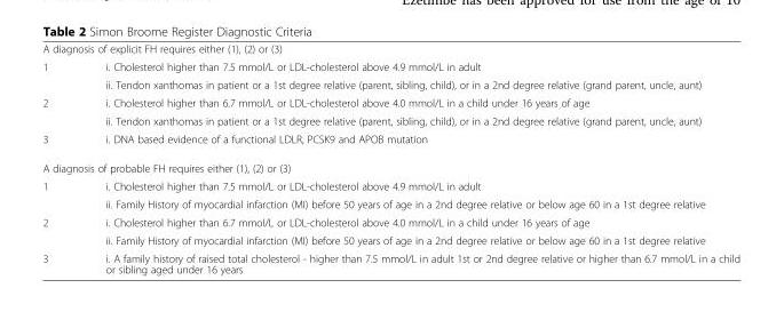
<table><tbody><tr><td colspan="2">A diagnosis of explicit FH requires either (1), (2) or (3)</td></tr><tr><td rowspan="2">1</td><td>i. Cholesterol higher than 7.5 mmol/L or LDL-cholesterol above 4.9 mmol/L in adult</td></tr><tr><td>ii. Tendon xanthomas in patient or a 1st degree relative (parent, sibling, child), or in a 2nd degree relative (grand parent, uncle, aunt)</td></tr><tr><td rowspan="2">2</td><td>i. Cholesterol higher than 6.7 mmol/L or LDL-cholesterol above 4.0 mmol/L in a child under 16 years of age</td></tr><tr><td>ii. Tendon xanthomas in patient or a 1st degree relative (parent, sibling, child), or in a 2nd degree relative (grand parent, uncle, aunt)</td></tr><tr><td>3</td><td>i. DNA based evidence of a functional LDLR, PCSK9 and APOB mutation</td></tr><tr><td colspan="2">A diagnosis of probable FH requires either (1), (2) or (3)</td></tr><tr><td rowspan="2">1</td><td>i. Cholesterol higher than 7.5 mmol/L or LDL-cholesterol above 4.9 mmol/L in adult</td></tr><tr><td>ii. Family History of myocardial infarction (MI) before 50 years of age in a 2nd degree relative or below age 60 in a 1st degree relative</td></tr><tr><td rowspan="2">2</td><td>i. Cholesterol higher than 6.7 mmol/L or LDL-cholesterol above 4.0 mmol/L in a child under 16 years of age</td></tr><tr><td>ii. Family History of myocardial infarction (MI) before 50 years of age in a 2nd degree relative or below age 60 in a 1st degree relative</td></tr><tr><td>3</td><td>i. A family history of raised total cholesterol - higher than 7.5 mmol/L in adult 1st or 2nd degree relative or higher than 6.7 mmol/L in a child or sibling aged under 16 years</td></tr></tbody></table>